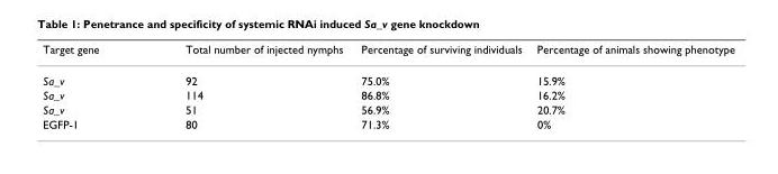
<table><thead><tr><td>Target gene</td><td>Total number of injected nymphs</td><td>Percentage of surviving individuals</td><td>Percentage of animals showing phenotype</td></tr></thead><tbody><tr><td>Sa_v</td><td>92</td><td>75.0%</td><td>15.9%</td></tr><tr><td>Sa_v</td><td>114</td><td>86.8%</td><td>16.2%</td></tr><tr><td>Sa_v</td><td>51</td><td>56.9%</td><td>20.7%</td></tr><tr><td>EGFP-1</td><td>80</td><td>71.3%</td><td>0%</td></tr></tbody></table>